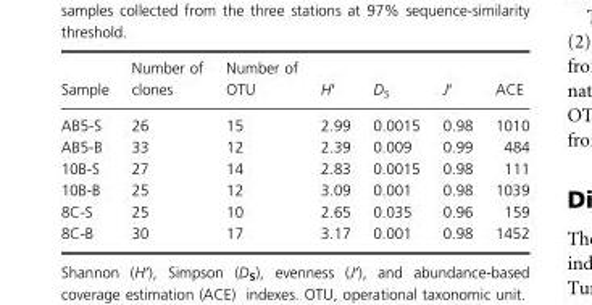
<table><thead><tr><td>Sample</td><td>Number of clones</td><td>Number of OTU</td><td>H′</td><td>D<sub>S</sub></td><td>J′</td><td>ACE</td></tr></thead><tbody><tr><td>AB5-S</td><td>26</td><td>15</td><td>2.99</td><td>0.0015</td><td>0.98</td><td>1010</td></tr><tr><td>AB5-B</td><td>33</td><td>12</td><td>2.39</td><td>0.009</td><td>0.99</td><td>484</td></tr><tr><td>10B-S</td><td>27</td><td>14</td><td>2.83</td><td>0.0015</td><td>0.98</td><td>111</td></tr><tr><td>10B-B</td><td>25</td><td>12</td><td>3.09</td><td>0.001</td><td>0.98</td><td>1039</td></tr><tr><td>8C-S</td><td>25</td><td>10</td><td>2.65</td><td>0.035</td><td>0.96</td><td>159</td></tr><tr><td>8C-B</td><td>30</td><td>17</td><td>3.17</td><td>0.001</td><td>0.98</td><td>1452</td></tr></tbody></table>